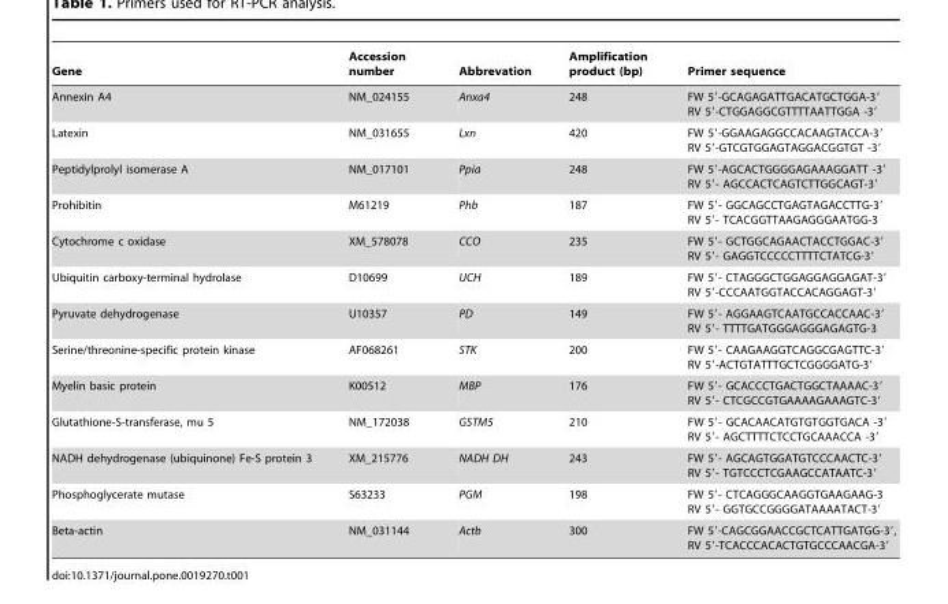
<table><thead><tr><td>Gene</td><td>Accession number</td><td>Abbrevation</td><td>Amplification product (bp)</td><td>Primer sequence</td></tr></thead><tbody><tr><td>Annexin A4</td><td>NM_024155</td><td>Anxa4</td><td>248</td><td>FW 5′-GCAGAGATTGACATGCTGGA-3′ RV 5′-CTGGAGGCGTTTTAATTGGA -3′</td></tr><tr><td>Latexin</td><td>NM_031655</td><td>Lxn</td><td>420</td><td>FW 5′-GGAAGAGGCCACAAGTACCA-3′ RV 5′-GTCGTGGAGTAGGACGGTGT -3′</td></tr><tr><td>Peptidylprolyl isomerase A</td><td>NM_017101</td><td>Ppia</td><td>248</td><td>FW 5′-AGCACTGGGGAGAAAGGATT -3′ RV 5′- AGCCACTCAGTCTTGGCAGT-3′</td></tr><tr><td>Prohibitin</td><td>M61219</td><td>Phb</td><td>187</td><td>FW 5′- GGCAGCCTGAGTAGACCTTG-3′ RV 5′- TCACGGTTAAGAGGGAATGG-3</td></tr><tr><td>Cytochrome c oxidase</td><td>XM_578078</td><td>CCO</td><td>235</td><td>FW 5′- GCTGGCAGAACTACCTGGAC-3′ RV 5′- GAGGTCCCCCTTTTCTATCG-3′</td></tr><tr><td>Ubiquitin carboxy-terminal hydrolase</td><td>D10699</td><td>UCH</td><td>189</td><td>FW 5′- CTAGGGCTGGAGGAGGAGAT-3′ RV 5′-CCCAATGGTACCACAGGAGT-3′</td></tr><tr><td>Pyruvate dehydrogenase</td><td>U10357</td><td>PD</td><td>149</td><td>FW 5′- AGGAAGTCAATGCCACCAAC-3′ RV 5′- TTTTGATGGGAGGGAGAGTG-3</td></tr><tr><td>Serine/threonine-specific protein kinase</td><td>AF068261</td><td>STK</td><td>200</td><td>FW 5′- CAAGAAGGTCAGGCGAGTTC-3′ RV 5′-ACTGTATTTGCTCGGGGATG-3′</td></tr><tr><td>Myelin basic protein</td><td>K00512</td><td>MBP</td><td>176</td><td>FW 5′- GCACCCTGACTGGCTAAAAC-3′ RV 5′- CTCGCCGTGAAAAGAAAGTC-3′</td></tr><tr><td>Glutathione-S-transferase, mu 5</td><td>NM_172038</td><td>GSTM5</td><td>210</td><td>FW 5′- GCACAACATGTGTGGTGACA -3′ RV 5′- AGCTTTTCTCCTGCAAACCA -3′</td></tr><tr><td>NADH dehydrogenase (ubiquinone) Fe-S protein 3</td><td>XM_215776</td><td>NADH DH</td><td>243</td><td>FW 5′- AGCAGTGGATGTCCCAACTC-3′ RV 5′- TGTCCCTCGAAGCCATAATC-3′</td></tr><tr><td>Phosphoglycerate mutase</td><td>S63233</td><td>PGM</td><td>198</td><td>FW 5′- CTCAGGGCAAGGTGAAGAAG-3 RV 5′- GGTGCCGGGGATAAAATACT-3′</td></tr><tr><td>Beta-actin</td><td>NM_031144</td><td>Actb</td><td>300</td><td>FW 5′-CAGCGGAACCGCTCATTGATGG-3′, RV 5′-TCACCCACACTGTGCCCAACGA-3′</td></tr></tbody></table>